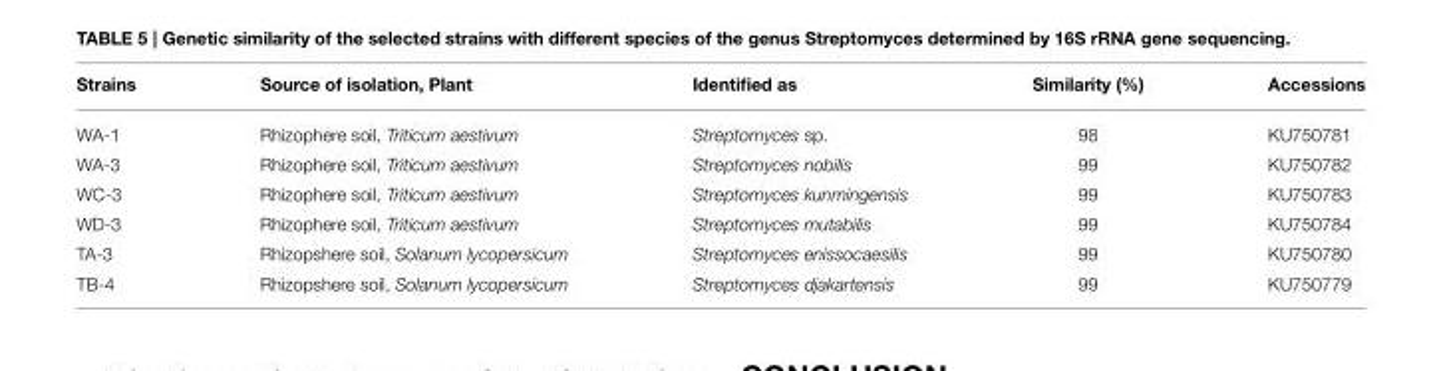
<table><thead><tr><td>Strains</td><td>Source of isolation, Plant</td><td>Identified as</td><td>Similarity (%)</td><td>Accessions</td></tr></thead><tbody><tr><td>WA-1</td><td>Rhizophere soil, Triticum aestivum</td><td>Streptomyces sp.</td><td>98</td><td>KU750781</td></tr><tr><td>WA-3</td><td>Rhizophere soil, Triticum aestivum</td><td>Streptomyces nobilis</td><td>99</td><td>KU750782</td></tr><tr><td>WC-3</td><td>Rhizophere soil, Triticum aestivum</td><td>Streptomyces kunmingensis</td><td>99</td><td>KU750783</td></tr><tr><td>WD-3</td><td>Rhizophere soil, Triticum aestivum</td><td>Streptomyces mutabilis</td><td>99</td><td>KU750784</td></tr><tr><td>TA-3</td><td>Rhizopshere soil, Solanum lycopersicum</td><td>Streptomyces enissocaesilis</td><td>99</td><td>KU750780</td></tr><tr><td>TB-4</td><td>Rhizopshere soil, Solanum lycopersicum</td><td>Streptomyces djakartensis</td><td>99</td><td>KU750779</td></tr></tbody></table>